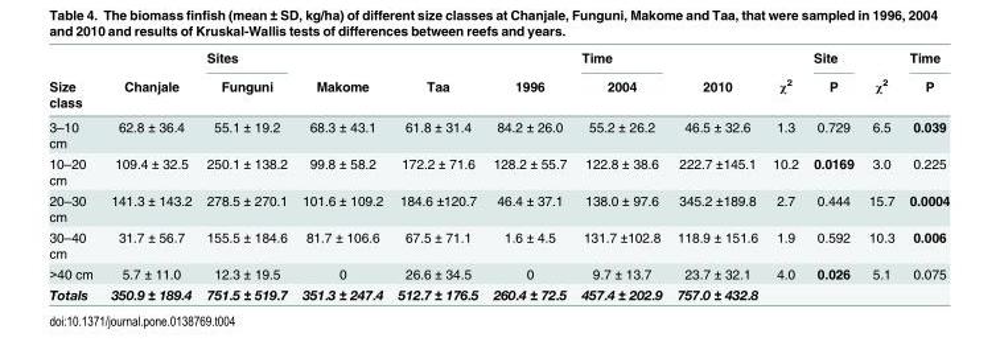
<table><thead><tr><td rowspan="2">Size class</td><td rowspan="2">Chanjale</td><td rowspan="2">Sites Funguni</td><td rowspan="2">Makome</td><td rowspan="2">Taa</td><td rowspan="2">1996</td><td rowspan="2">Time 2004</td><td rowspan="2">2010</td><td rowspan="2">χ<sup>2</sup></td><td rowspan="2">Site P</td><td rowspan="2">χ<sup>2</sup></td><td rowspan="2">Time P</td></tr><tr></tr></thead><tbody><tr><td>3–10 cm</td><td>62.8 ± 36.4</td><td>55.1 ± 19.2</td><td>68.3 ± 43.1</td><td>61.8 ± 31.4</td><td>84.2 ± 26.0</td><td>55.2 ± 26.2</td><td>46.5 ± 32.6</td><td>1.3</td><td>0.729</td><td>6.5</td><td>0.039</td></tr><tr><td>10–20 cm</td><td>109.4 ± 32.5</td><td>250.1 ± 138.2</td><td>99.8 ± 58.2</td><td>172.2 ± 71.6</td><td>128.2 ± 55.7</td><td>122.8 ± 38.6</td><td>222.7 ±145.1</td><td>10.2</td><td>0.0169</td><td>3.0</td><td>0.225</td></tr><tr><td>20–30 cm</td><td>141.3 ± 143.2</td><td>278.5 ± 270.1</td><td>101.6 ± 109.2</td><td>184.6 ±120.7</td><td>46.4 ± 37.1</td><td>138.0 ± 97.6</td><td>345.2 ±189.8</td><td>2.7</td><td>0.444</td><td>15.7</td><td>0.0004</td></tr><tr><td>30–40 cm</td><td>31.7 ± 56.7</td><td>155.5 ± 184.6</td><td>81.7 ± 106.6</td><td>67.5 ± 71.1</td><td>1.6 ± 4.5</td><td>131.7 ±102.8</td><td>118.9 ± 151.6</td><td>1.9</td><td>0.592</td><td>10.3</td><td>0.006</td></tr><tr><td>&gt;40 cm</td><td>5.7 ± 11.0</td><td>12.3 ± 19.5</td><td>0</td><td>26.6 ± 34.5</td><td>0</td><td>9.7 ± 13.7</td><td>23.7 ± 32.1</td><td>4.0</td><td>0.026</td><td>5.1</td><td>0.075</td></tr><tr><td>Totals</td><td>350.9 ± 189.4</td><td>751.5 ± 519.7</td><td>351.3 ± 247.4</td><td>512.7 ± 176.5</td><td>260.4 ± 72.5</td><td>457.4 ± 202.9</td><td>757.0 ± 432.8</td><td></td><td></td><td></td><td></td></tr></tbody></table>